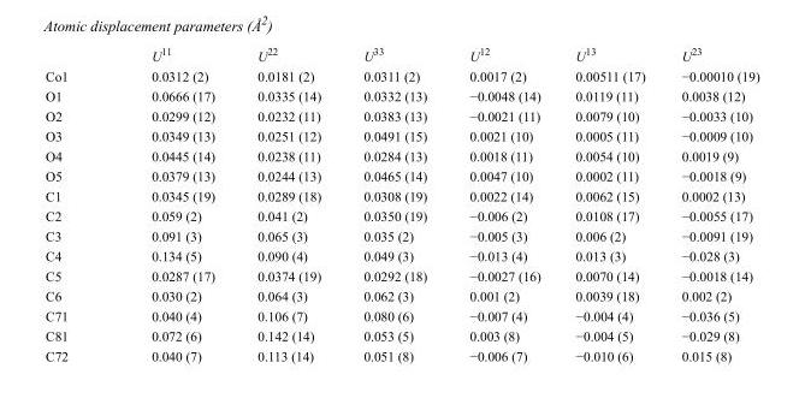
<table><thead><tr><td></td><td>U<sup>11</sup></td><td>U<sup>22</sup></td><td>U<sup>33</sup></td><td>U<sup>12</sup></td><td>U<sup>13</sup></td><td>U<sup>23</sup></td></tr></thead><tbody><tr><td>Co1</td><td>0.0312 (2)</td><td>0.0181 (2)</td><td>0.0311 (2)</td><td>0.0017 (2)</td><td>0.00511 (17)</td><td>−0.00010 (19)</td></tr><tr><td>O1</td><td>0.0666 (17)</td><td>0.0335 (14)</td><td>0.0332 (13)</td><td>−0.0048 (14)</td><td>0.0119 (11)</td><td>0.0038 (12)</td></tr><tr><td>O2</td><td>0.0299 (12)</td><td>0.0232 (11)</td><td>0.0383 (13)</td><td>−0.0021 (11)</td><td>0.0079 (10)</td><td>−0.0033 (10)</td></tr><tr><td>O3</td><td>0.0349 (13)</td><td>0.0251 (12)</td><td>0.0491 (15)</td><td>0.0021 (10)</td><td>0.0005 (11)</td><td>−0.0009 (10)</td></tr><tr><td>O4</td><td>0.0445 (14)</td><td>0.0238 (11)</td><td>0.0284 (13)</td><td>0.0018 (11)</td><td>0.0054 (10)</td><td>0.0019 (9)</td></tr><tr><td>O5</td><td>0.0379 (13)</td><td>0.0244 (13)</td><td>0.0465 (14)</td><td>0.0047 (10)</td><td>0.0002 (11)</td><td>−0.0018 (9)</td></tr><tr><td>C1</td><td>0.0345 (19)</td><td>0.0289 (18)</td><td>0.0308 (19)</td><td>0.0022 (14)</td><td>0.0062 (15)</td><td>0.0002 (13)</td></tr><tr><td>C2</td><td>0.059 (2)</td><td>0.041 (2)</td><td>0.0350 (19)</td><td>−0.006 (2)</td><td>0.0108 (17)</td><td>−0.0055 (17)</td></tr><tr><td>C3</td><td>0.091 (3)</td><td>0.065 (3)</td><td>0.035 (2)</td><td>−0.005 (3)</td><td>0.006 (2)</td><td>−0.0091 (19)</td></tr><tr><td>C4</td><td>0.134 (5)</td><td>0.090 (4)</td><td>0.049 (3)</td><td>−0.013 (4)</td><td>0.013 (3)</td><td>−0.028 (3)</td></tr><tr><td>C5</td><td>0.0287 (17)</td><td>0.0374 (19)</td><td>0.0292 (18)</td><td>−0.0027 (16)</td><td>0.0070 (14)</td><td>−0.0018 (14)</td></tr><tr><td>C6</td><td>0.030 (2)</td><td>0.064 (3)</td><td>0.062 (3)</td><td>0.001 (2)</td><td>0.0039 (18)</td><td>0.002 (2)</td></tr><tr><td>C71</td><td>0.040 (4)</td><td>0.106 (7)</td><td>0.080 (6)</td><td>−0.007 (4)</td><td>−0.004 (4)</td><td>−0.036 (5)</td></tr><tr><td>C81</td><td>0.072 (6)</td><td>0.142 (14)</td><td>0.053 (5)</td><td>0.003 (8)</td><td>−0.004 (5)</td><td>−0.029 (8)</td></tr><tr><td>C72</td><td>0.040 (7)</td><td>0.113 (14)</td><td>0.051 (8)</td><td>−0.006 (7)</td><td>−0.010 (6)</td><td>0.015 (8)</td></tr></tbody></table>